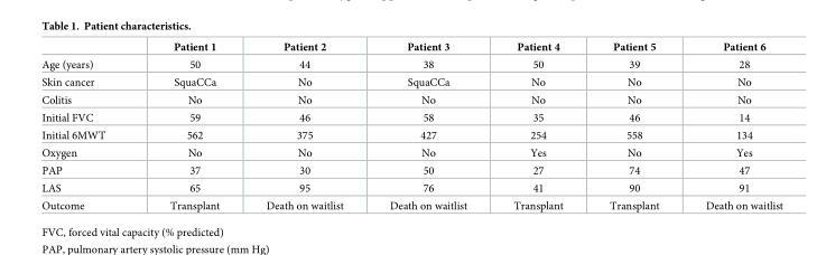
<table><thead><tr><td></td><td>Patient 1</td><td>Patient 2</td><td>Patient 3</td><td>Patient 4</td><td>Patient 5</td><td>Patient 6</td></tr></thead><tbody><tr><td>Age (years)</td><td>50</td><td>44</td><td>38</td><td>50</td><td>39</td><td>28</td></tr><tr><td>Skin cancer</td><td>SquaCCa</td><td>No</td><td>SquaCCa</td><td>No</td><td>No</td><td>No</td></tr><tr><td>Colitis</td><td>No</td><td>No</td><td>No</td><td>No</td><td>No</td><td>No</td></tr><tr><td>Initial FVC</td><td>59</td><td>46</td><td>58</td><td>35</td><td>46</td><td>14</td></tr><tr><td>Initial 6MWT</td><td>562</td><td>375</td><td>427</td><td>254</td><td>558</td><td>134</td></tr><tr><td>Oxygen</td><td>No</td><td>No</td><td>No</td><td>Yes</td><td>No</td><td>Yes</td></tr><tr><td>PAP</td><td>37</td><td>30</td><td>50</td><td>27</td><td>74</td><td>47</td></tr><tr><td>LAS</td><td>65</td><td>95</td><td>76</td><td>41</td><td>90</td><td>91</td></tr><tr><td>Outcome</td><td>Transplant</td><td>Death on waitlist</td><td>Death on waitlist</td><td>Transplant</td><td>Transplant</td><td>Death on waitlist</td></tr></tbody></table>